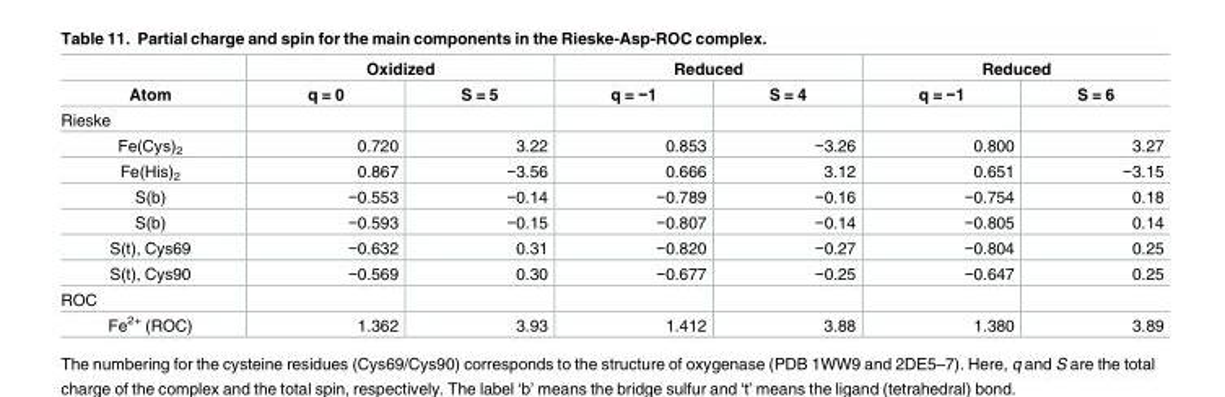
<table><thead><tr><td rowspan="2">Atom</td><td colspan="2">Oxidized</td><td colspan="2">Reduced</td><td colspan="2">Reduced</td></tr><tr><td>q = 0</td><td>S = 5</td><td>q = −1</td><td>S = 4</td><td>q = −1</td><td>S = 6</td></tr></thead><tbody><tr><td colspan="7">Rieske</td></tr><tr><td>Fe(Cys)<sub>2</sub></td><td>0.720</td><td>3.22</td><td>0.853</td><td>−3.26</td><td>0.800</td><td>3.27</td></tr><tr><td>Fe(His)<sub>2</sub></td><td>0.867</td><td>−3.56</td><td>0.666</td><td>3.12</td><td>0.651</td><td>−3.15</td></tr><tr><td>S(b)</td><td>−0.553</td><td>−0.14</td><td>−0.789</td><td>−0.16</td><td>−0.754</td><td>0.18</td></tr><tr><td>S(b)</td><td>−0.593</td><td>−0.15</td><td>−0.807</td><td>−0.14</td><td>−0.805</td><td>0.14</td></tr><tr><td>S(t), Cys69</td><td>−0.632</td><td>0.31</td><td>−0.820</td><td>−0.27</td><td>−0.804</td><td>0.25</td></tr><tr><td>S(t), Cys90</td><td>−0.569</td><td>0.30</td><td>−0.677</td><td>−0.25</td><td>−0.647</td><td>0.25</td></tr><tr><td colspan="7">ROC</td></tr><tr><td>Fe<sup>2+</sup> (ROC)</td><td>1.362</td><td>3.93</td><td>1.412</td><td>3.88</td><td>1.380</td><td>3.89</td></tr></tbody></table>